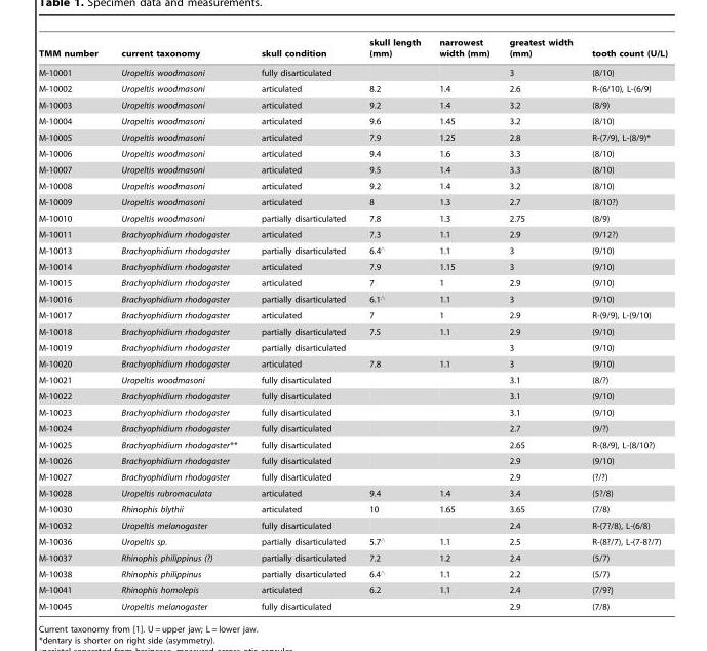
<table><thead><tr><td>TMM number</td><td>current taxonomy</td><td>skull condition</td><td>skull length (mm)</td><td>narrowest width (mm)</td><td>greatest width (mm)</td><td>tooth count (U/L)</td></tr></thead><tbody><tr><td>M-10001</td><td>Uropeltis woodmasoni</td><td>fully disarticulated</td><td></td><td></td><td>3</td><td>(8/10)</td></tr><tr><td>M-10002</td><td>Uropeltis woodmasoni</td><td>articulated</td><td>8.2</td><td>1.4</td><td>2.6</td><td>R-(6/10), L-(6/9)</td></tr><tr><td>M-10003</td><td>Uropeltis woodmasoni</td><td>articulated</td><td>9.2</td><td>1.4</td><td>3.2</td><td>(8/9)</td></tr><tr><td>M-10004</td><td>Uropeltis woodmasoni</td><td>articulated</td><td>9.6</td><td>1.45</td><td>3.2</td><td>(8/10)</td></tr><tr><td>M-10005</td><td>Uropeltis woodmasoni</td><td>articulated</td><td>7.9</td><td>1.25</td><td>2.8</td><td>R-(7/9), L-(8/9)*</td></tr><tr><td>M-10006</td><td>Uropeltis woodmasoni</td><td>articulated</td><td>9.4</td><td>1.6</td><td>3.3</td><td>(8/10)</td></tr><tr><td>M-10007</td><td>Uropeltis woodmasoni</td><td>articulated</td><td>9.5</td><td>1.4</td><td>3.3</td><td>(8/10)</td></tr><tr><td>M-10008</td><td>Uropeltis woodmasoni</td><td>articulated</td><td>9.2</td><td>1.4</td><td>3.2</td><td>(8/10)</td></tr><tr><td>M-10009</td><td>Uropeltis woodmasoni</td><td>articulated</td><td>8</td><td>1.3</td><td>2.7</td><td>(8/10?)</td></tr><tr><td>M-10010</td><td>Uropeltis woodmasoni</td><td>partially disarticulated</td><td>7.8</td><td>1.3</td><td>2.75</td><td>(8/9)</td></tr><tr><td>M-10011</td><td>Brachyophidium rhodogaster</td><td>articulated</td><td>7.3</td><td>1.1</td><td>2.9</td><td>(9/12?)</td></tr><tr><td>M-10013</td><td>Brachyophidium rhodogaster</td><td>partially disarticulated</td><td>6.4‘</td><td>1.1</td><td>3</td><td>(9/10)</td></tr><tr><td>M-10014</td><td>Brachyophidium rhodogaster</td><td>articulated</td><td>7.9</td><td>1.15</td><td>3</td><td>(9/10)</td></tr><tr><td>M-10015</td><td>Brachyophidium rhodogaster</td><td>articulated</td><td>7</td><td>1</td><td>2.9</td><td>(9/10)</td></tr><tr><td>M-10016</td><td>Brachyophidium rhodogaster</td><td>partially disarticulated</td><td>6.1‘</td><td>1.1</td><td>3</td><td>(9/10)</td></tr><tr><td>M-10017</td><td>Brachyophidium rhodogaster</td><td>articulated</td><td>7</td><td>1</td><td>2.9</td><td>R-(9/9), L-(9/10)</td></tr><tr><td>M-10018</td><td>Brachyophidium rhodogaster</td><td>partially disarticulated</td><td>7.5</td><td>1.1</td><td>2.9</td><td>(9/10)</td></tr><tr><td>M-10019</td><td>Brachyophidium rhodogaster</td><td>partially disarticulated</td><td></td><td></td><td>3</td><td>(9/10)</td></tr><tr><td>M-10020</td><td>Brachyophidium rhodogaster</td><td>articulated</td><td>7.8</td><td>1.1</td><td>3</td><td>(9/10)</td></tr><tr><td>M-10021</td><td>Uropeltis woodmasoni</td><td>fully disarticulated</td><td></td><td></td><td>3.1</td><td>(8/?)</td></tr><tr><td>M-10022</td><td>Brachyophidium rhodogaster</td><td>fully disarticulated</td><td></td><td></td><td>3.1</td><td>(9/10)</td></tr><tr><td>M-10023</td><td>Brachyophidium rhodogaster</td><td>fully disarticulated</td><td></td><td></td><td>3.1</td><td>(9/10)</td></tr><tr><td>M-10024</td><td>Brachyophidium rhodogaster</td><td>fully disarticulated</td><td></td><td></td><td>2.7</td><td>(9/?)</td></tr><tr><td>M-10025</td><td>Brachyophidium rhodogaster**</td><td>fully disarticulated</td><td></td><td></td><td>2.65</td><td>R-(8/9), L-(8/10?)</td></tr><tr><td>M-10026</td><td>Brachyophidium rhodogaster</td><td>fully disarticulated</td><td></td><td></td><td>2.9</td><td>(9/10)</td></tr><tr><td>M-10027</td><td>Brachyophidium rhodogaster</td><td>fully disarticulated</td><td></td><td></td><td>2.9</td><td>(?/?)</td></tr><tr><td>M-10028</td><td>Uropeltis rubromaculata</td><td>articulated</td><td>9.4</td><td>1.4</td><td>3.4</td><td>(5?/8)</td></tr><tr><td>M-10030</td><td>Rhinophis blythii</td><td>articulated</td><td>10</td><td>1.65</td><td>3.65</td><td>(7/8)</td></tr><tr><td>M-10032</td><td>Uropeltis melanogaster</td><td>fully disarticulated</td><td></td><td></td><td>2.4</td><td>R-(7?/8), L-(6/8)</td></tr><tr><td>M-10036</td><td>Uropeltis sp.</td><td>partially disarticulated</td><td>5.7‘</td><td>1.1</td><td>2.5</td><td>R-(8?/7), L-(7-8?/7)</td></tr><tr><td>M-10037</td><td>Rhinophis philippinus (?)</td><td>partially disarticulated</td><td>7.2</td><td>1.2</td><td>2.4</td><td>(5/7)</td></tr><tr><td>M-10038</td><td>Rhinophis philippinus</td><td>partially disarticulated</td><td>6.4‘</td><td>1.1</td><td>2.2</td><td>(5/7)</td></tr><tr><td>M-10041</td><td>Rhinophis homolepis</td><td>articulated</td><td>6.2</td><td>1.1</td><td>2.4</td><td>(7/9?)</td></tr><tr><td>M-10045</td><td>Uropeltis melanogaster</td><td>fully disarticulated</td><td></td><td></td><td>2.9</td><td>(7/8)</td></tr></tbody></table>